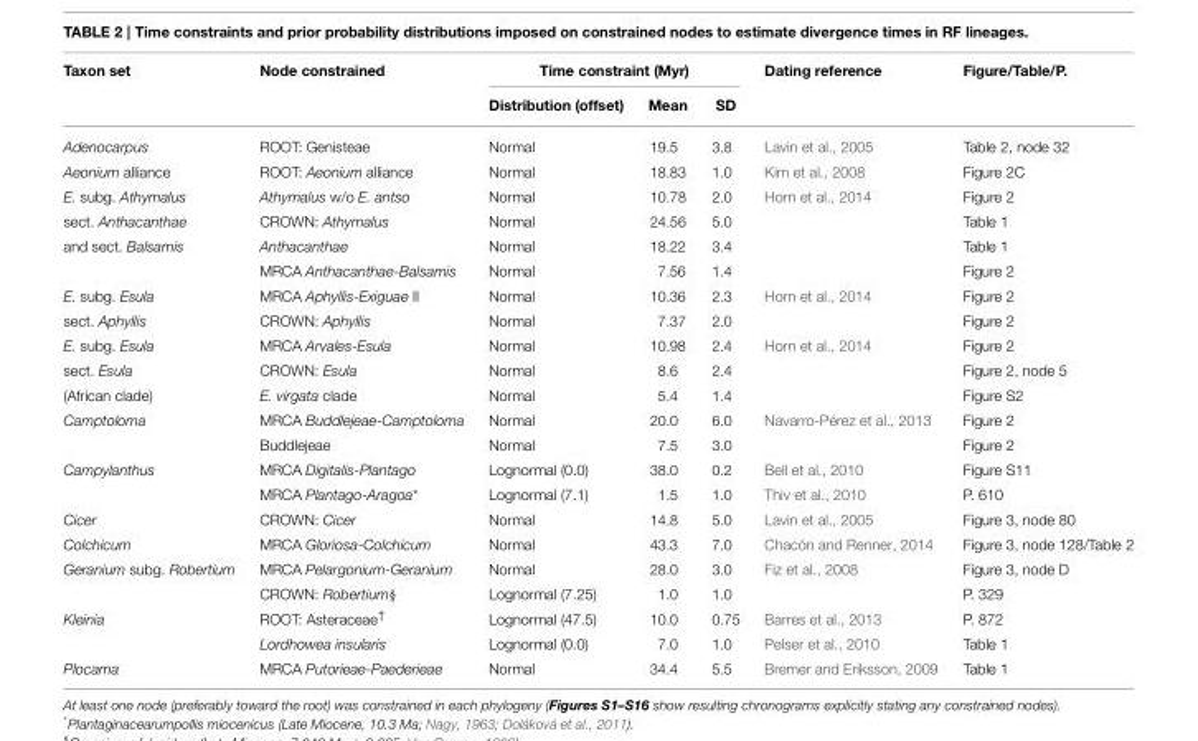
<table><thead><tr><td rowspan="2">Taxon set</td><td rowspan="2">Node constrained</td><td colspan="3">Time constraint (Myr)</td><td rowspan="2">Dating reference</td><td rowspan="2">Figure/Table/P.</td></tr><tr><td>Distribution (offset)</td><td>Mean</td><td>SD</td></tr></thead><tbody><tr><td>Adenocarpus</td><td>ROOT: Genisteae</td><td>Normal</td><td>19.5</td><td>3.8</td><td>Lavin et al., 2005</td><td>Table 2, node 32</td></tr><tr><td>Aeonium alliance</td><td>ROOT: Aeonium alliance</td><td>Normal</td><td>18.83</td><td>1.0</td><td>Kim et al., 2008</td><td>Figure 2C</td></tr><tr><td>E. subg. Athymalus</td><td>Athymalus w/o E. antso</td><td>Normal</td><td>10.78</td><td>2.0</td><td>Horn et al., 2014</td><td>Figure 2</td></tr><tr><td>sect. Anthacanthae</td><td>CROWN: Athymalus</td><td>Normal</td><td>24.56</td><td>5.0</td><td></td><td>Table 1</td></tr><tr><td rowspan="2">and sect. Balsamis</td><td>Anthacanthae</td><td>Normal</td><td>18.22</td><td>3.4</td><td></td><td>Table 1</td></tr><tr><td>MRCA Anthacanthae-Balsamis</td><td>Normal</td><td>7.56</td><td>1.4</td><td></td><td>Figure 2</td></tr><tr><td>E. subg. Esula</td><td>MRCA Aphyllis-Exiguae II</td><td>Normal</td><td>10.36</td><td>2.3</td><td>Horn et al., 2014</td><td>Figure 2</td></tr><tr><td>sect. Aphyllis</td><td>CROWN: Aphyllis</td><td>Normal</td><td>7.37</td><td>2.0</td><td></td><td>Figure 2</td></tr><tr><td>E. subg. Esula</td><td>MRCA Arvales-Esula</td><td>Normal</td><td>10.98</td><td>2.4</td><td>Horn et al., 2014</td><td>Figure 2</td></tr><tr><td>sect. Esula</td><td>CROWN: Esula</td><td>Normal</td><td>8.6</td><td>2.4</td><td></td><td>Figure 2, node 5</td></tr><tr><td>(African clade)</td><td>E. virgata clade</td><td>Normal</td><td>5.4</td><td>1.4</td><td></td><td>Figure S2</td></tr><tr><td rowspan="2">Camptoloma</td><td>MRCA Buddlejeae-Camptoloma</td><td>Normal</td><td>20.0</td><td>6.0</td><td>Navarro-Pérez et al., 2013</td><td>Figure 2</td></tr><tr><td>Buddlejeae</td><td>Normal</td><td>7.5</td><td>3.0</td><td></td><td>Figure 2</td></tr><tr><td rowspan="2">Campylanthus</td><td>MRCA Digitalis-Plantago</td><td>Lognormal (0.0)</td><td>38.0</td><td>0.2</td><td>Bell et al., 2010</td><td>Figure S11</td></tr><tr><td>MRCA Plantago-Aragoa*</td><td>Lognormal (7.1)</td><td>1.5</td><td>1.0</td><td>Thiv et al., 2010</td><td>P. 610</td></tr><tr><td>Cicer</td><td>CROWN: Cicer</td><td>Normal</td><td>14.8</td><td>5.0</td><td>Lavin et al., 2005</td><td>Figure 3, node 80</td></tr><tr><td>Colchicum</td><td>MRCA Gloriosa-Colchicum</td><td>Normal</td><td>43.3</td><td>7.0</td><td>Chacón and Renner, 2014</td><td>Figure 3, node 128/Table 2</td></tr><tr><td rowspan="2">Geranium subg. Robertium</td><td>MRCA Pelargonium-Geranium</td><td>Normal</td><td>28.0</td><td>3.0</td><td>Fiz et al., 2008</td><td>Figure 3, node D</td></tr><tr><td>CROWN: Robertium<sup>§</sup></td><td>Lognormal (7.25)</td><td>1.0</td><td>1.0</td><td></td><td>P. 329</td></tr><tr><td rowspan="2">Kleinia</td><td>ROOT: Asteraceae<sup>†</sup></td><td>Lognormal (47.5)</td><td>10.0</td><td>0.75</td><td>Barres et al., 2013</td><td>P. 872</td></tr><tr><td>Lordhowea insularis</td><td>Lognormal (0.0)</td><td>7.0</td><td>1.0</td><td>Pelser et al., 2010</td><td>Table 1</td></tr><tr><td>Plocama</td><td>MRCA Putorieae-Paederieae</td><td>Normal</td><td>34.4</td><td>5.5</td><td>Bremer and Eriksson, 2009</td><td>Table 1</td></tr></tbody></table>